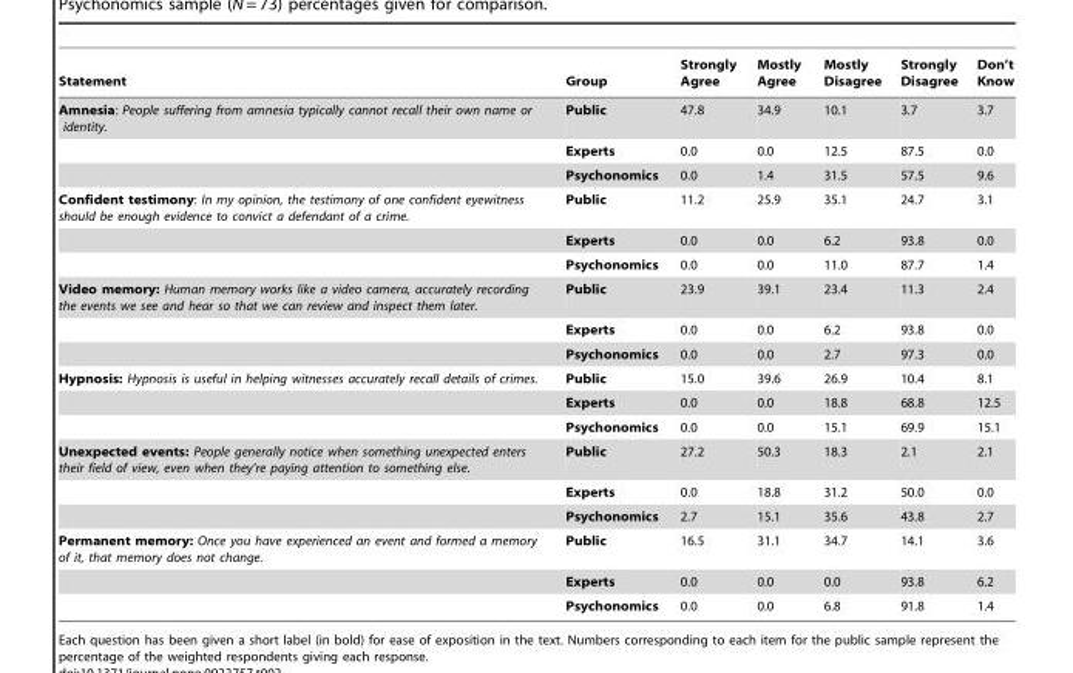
<table><thead><tr><td>Statement</td><td>Group</td><td>Strongly Agree</td><td>Mostly Agree</td><td>Mostly Disagree</td><td>Strongly Disagree</td><td>Don’t Know</td></tr></thead><tbody><tr><td rowspan="3">Amnesia: People suffering from amnesia typically cannot recall their own name or identity.</td><td>Public</td><td>47.8</td><td>34.9</td><td>10.1</td><td>3.7</td><td>3.7</td></tr><tr><td>Experts</td><td>0.0</td><td>0.0</td><td>12.5</td><td>87.5</td><td>0.0</td></tr><tr><td>Psychonomics</td><td>0.0</td><td>1.4</td><td>31.5</td><td>57.5</td><td>9.6</td></tr><tr><td rowspan="3">Confident testimony: In my opinion, the testimony of one confident eyewitness should be enough evidence to convict a defendant of a crime.</td><td>Public</td><td>11.2</td><td>25.9</td><td>35.1</td><td>24.7</td><td>3.1</td></tr><tr><td>Experts</td><td>0.0</td><td>0.0</td><td>6.2</td><td>93.8</td><td>0.0</td></tr><tr><td>Psychonomics</td><td>0.0</td><td>0.0</td><td>11.0</td><td>87.7</td><td>1.4</td></tr><tr><td rowspan="3">Video memory: Human memory works like a video camera, accurately recording the events we see and hear so that we can review and inspect them later.</td><td>Public</td><td>23.9</td><td>39.1</td><td>23.4</td><td>11.3</td><td>2.4</td></tr><tr><td>Experts</td><td>0.0</td><td>0.0</td><td>6.2</td><td>93.8</td><td>0.0</td></tr><tr><td>Psychonomics</td><td>0.0</td><td>0.0</td><td>2.7</td><td>97.3</td><td>0.0</td></tr><tr><td rowspan="3">Hypnosis: Hypnosis is useful in helping witnesses accurately recall details of crimes.</td><td>Public</td><td>15.0</td><td>39.6</td><td>26.9</td><td>10.4</td><td>8.1</td></tr><tr><td>Experts</td><td>0.0</td><td>0.0</td><td>18.8</td><td>68.8</td><td>12.5</td></tr><tr><td>Psychonomics</td><td>0.0</td><td>0.0</td><td>15.1</td><td>69.9</td><td>15.1</td></tr><tr><td rowspan="3">Unexpected events: People generally notice when something unexpected enters their field of view, even when they’re paying attention to something else.</td><td>Public</td><td>27.2</td><td>50.3</td><td>18.3</td><td>2.1</td><td>2.1</td></tr><tr><td>Experts</td><td>0.0</td><td>18.8</td><td>31.2</td><td>50.0</td><td>0.0</td></tr><tr><td>Psychonomics</td><td>2.7</td><td>15.1</td><td>35.6</td><td>43.8</td><td>2.7</td></tr><tr><td rowspan="3">Permanent memory: Once you have experienced an event and formed a memory of it, that memory does not change.</td><td>Public</td><td>16.5</td><td>31.1</td><td>34.7</td><td>14.1</td><td>3.6</td></tr><tr><td>Experts</td><td>0.0</td><td>0.0</td><td>0.0</td><td>93.8</td><td>6.2</td></tr><tr><td>Psychonomics</td><td>0.0</td><td>0.0</td><td>6.8</td><td>91.8</td><td>1.4</td></tr></tbody></table>